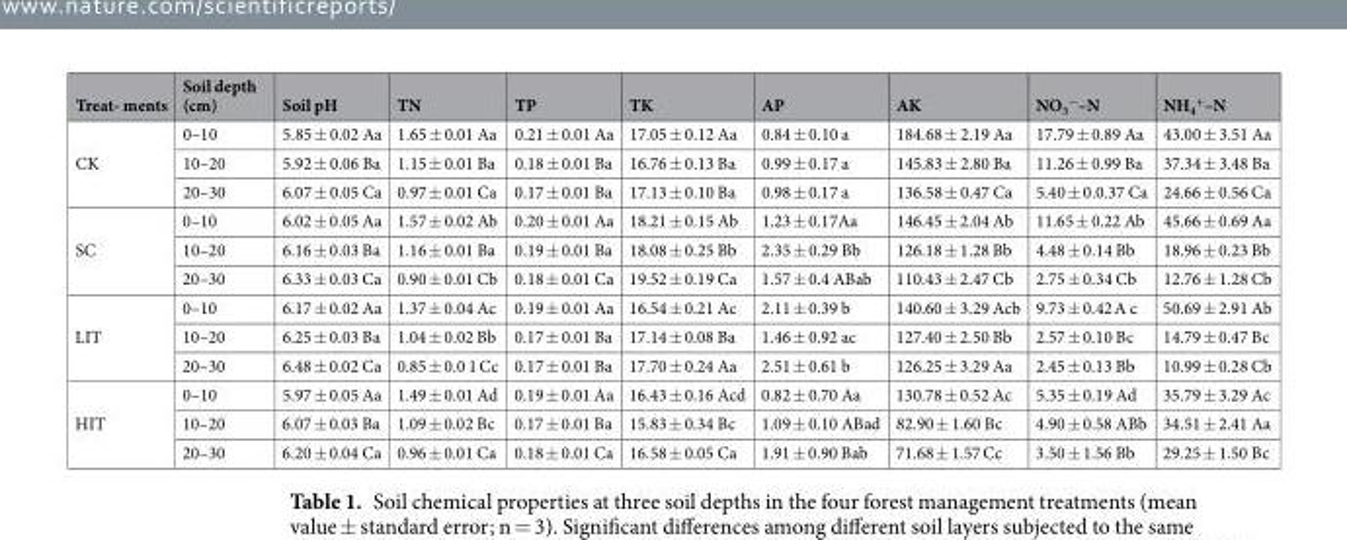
<table><thead><tr><td>Treat- ments</td><td>Soil depth (cm)</td><td>Soil pH</td><td>TN</td><td>TP</td><td>TK</td><td>AP</td><td>AK</td><td>NO<sub>3</sub> <sup>−</sup>–N</td><td>NH<sub>4</sub> <sup>+</sup>–N</td></tr></thead><tbody><tr><td rowspan="3">CK</td><td>0–10</td><td>5.85 ± 0.02 Aa</td><td>1.65 ± 0.01 Aa</td><td>0.21 ± 0.01 Aa</td><td>17.05 ± 0.12 Aa</td><td>0.84 ± 0.10 a</td><td>184.68 ± 2.19 Aa</td><td>17.79 ± 0.89 Aa</td><td>43.00 ± 3.51 Aa</td></tr><tr><td>10–20</td><td>5.92 ± 0.06 Ba</td><td>1.15 ± 0.01 Ba</td><td>0.18 ± 0.01 Ba</td><td>16.76 ± 0.13 Ba</td><td>0.99 ± 0.17 a</td><td>145.83 ± 2.80 Ba</td><td>11.26 ± 0.99 Ba</td><td>37.34 ± 3.48 Ba</td></tr><tr><td>20–30</td><td>6.07 ± 0.05 Ca</td><td>0.97 ± 0.01 Ca</td><td>0.17 ± 0.01 Ba</td><td>17.13 ± 0.10 Ba</td><td>0.98 ± 0.17 a</td><td>136.58 ± 0.47 Ca</td><td>5.40 ± 0.0.37 Ca</td><td>24.66 ± 0.56 Ca</td></tr><tr><td rowspan="3">SC</td><td>0–10</td><td>6.02 ± 0.05 Aa</td><td>1.57 ± 0.02 Ab</td><td>0.20 ± 0.01 Aa</td><td>18.21 ± 0.15 Ab</td><td>1.23 ± 0.17Aa</td><td>146.45 ± 2.04 Ab</td><td>11.65 ± 0.22 Ab</td><td>45.66 ± 0.69 Aa</td></tr><tr><td>10–20</td><td>6.16 ± 0.03 Ba</td><td>1.16 ± 0.01 Ba</td><td>0.19 ± 0.01 Ba</td><td>18.08 ± 0.25 Bb</td><td>2.35 ± 0.29 Bb</td><td>126.18 ± 1.28 Bb</td><td>4.48 ± 0.14 Bb</td><td>18.96 ± 0.23 Bb</td></tr><tr><td>20–30</td><td>6.33 ± 0.03 Ca</td><td>0.90 ± 0.01 Cb</td><td>0.18 ± 0.01 Ca</td><td>19.52 ± 0.19 Ca</td><td>1.57 ± 0.4 ABab</td><td>110.43 ± 2.47 Cb</td><td>2.75 ± 0.34 Cb</td><td>12.76 ± 1.28 Cb</td></tr><tr><td rowspan="3">LIT</td><td>0–10</td><td>6.17 ± 0.02 Aa</td><td>1.37 ± 0.04 Ac</td><td>0.19 ± 0.01 Aa</td><td>16.54 ± 0.21 Ac</td><td>2.11 ± 0.39 b</td><td>140.60 ± 3.29 Acb</td><td>9.73 ± 0.42 A c</td><td>50.69 ± 2.91 Ab</td></tr><tr><td>10–20</td><td>6.25 ± 0.03 Ba</td><td>1.04 ± 0.02 Bb</td><td>0.17 ± 0.01 Ba</td><td>17.14 ± 0.08 Ba</td><td>1.46 ± 0.92 ac</td><td>127.40 ± 2.50 Bb</td><td>2.57 ± 0.10 Bc</td><td>14.79 ± 0.47 Bc</td></tr><tr><td>20–30</td><td>6.48 ± 0.02 Ca</td><td>0.85 ± 0.0 1 Cc</td><td>0.17 ± 0.01 Ba</td><td>17.70 ± 0.24 Aa</td><td>2.51 ± 0.61 b</td><td>126.25 ± 3.29 Aa</td><td>2.45 ± 0.13 Bb</td><td>10.99 ± 0.28 Cb</td></tr><tr><td rowspan="3">HIT</td><td>0–10</td><td>5.97 ± 0.05 Aa</td><td>1.49 ± 0.01 Ad</td><td>0.19 ± 0.01 Aa</td><td>16.43 ± 0.16 Acd</td><td>0.82 ± 0.70 Aa</td><td>130.78 ± 0.52 Ac</td><td>5.35 ± 0.19 Ad</td><td>35.79 ± 3.29 Ac</td></tr><tr><td>10–20</td><td>6.07 ± 0.03 Ba</td><td>1.09 ± 0.02 Bc</td><td>0.17 ± 0.01 Ba</td><td>15.83 ± 0.34 Bc</td><td>1.09 ± 0.10 ABad</td><td>82.90 ± 1.60 Bc</td><td>4.90 ± 0.58 ABb</td><td>34.51 ± 2.41 Aa</td></tr><tr><td>20–30</td><td>6.20 ± 0.04 Ca</td><td>0.96 ± 0.01 Ca</td><td>0.18 ± 0.01 Ca</td><td>16.58 ± 0.05 Ca</td><td>1.91 ± 0.90 Bab</td><td>71.68 ± 1.57 Cc</td><td>3.50 ± 1.56 Bb</td><td>29.25 ± 1.50 Bc</td></tr></tbody></table>